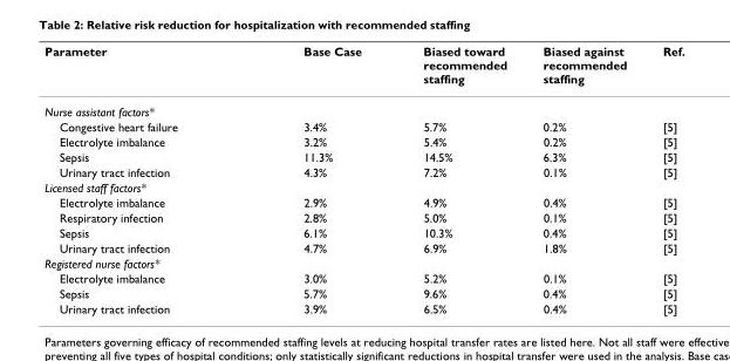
<table><thead><tr><td>Parameter</td><td>Base Case</td><td>Biased toward recommended staffing</td><td>Biased against recommended staffing</td><td>Ref.</td></tr></thead><tbody><tr><td colspan="5">Nurse assistant factors*</td></tr><tr><td>Congestive heart failure</td><td>3.4%</td><td>5.7%</td><td>0.2%</td><td>[5]</td></tr><tr><td>Electrolyte imbalance</td><td>3.2%</td><td>5.4%</td><td>0.2%</td><td>[5]</td></tr><tr><td>Sepsis</td><td>11.3%</td><td>14.5%</td><td>6.3%</td><td>[5]</td></tr><tr><td>Urinary tract infection</td><td>4.3%</td><td>7.2%</td><td>0.1%</td><td>[5]</td></tr><tr><td colspan="5">Licensed staff factors*</td></tr><tr><td>Electrolyte imbalance</td><td>2.9%</td><td>4.9%</td><td>0.4%</td><td>[5]</td></tr><tr><td>Respiratory infection</td><td>2.8%</td><td>5.0%</td><td>0.1%</td><td>[5]</td></tr><tr><td>Sepsis</td><td>6.1%</td><td>10.3%</td><td>0.4%</td><td>[5]</td></tr><tr><td>Urinary tract infection</td><td>4.7%</td><td>6.9%</td><td>1.8%</td><td>[5]</td></tr><tr><td colspan="5">Registered nurse factors*</td></tr><tr><td>Electrolyte imbalance</td><td>3.0%</td><td>5.2%</td><td>0.1%</td><td>[5]</td></tr><tr><td>Sepsis</td><td>5.7%</td><td>9.6%</td><td>0.4%</td><td>[5]</td></tr><tr><td>Urinary tract infection</td><td>3.9%</td><td>6.5%</td><td>0.4%</td><td>[5]</td></tr></tbody></table>